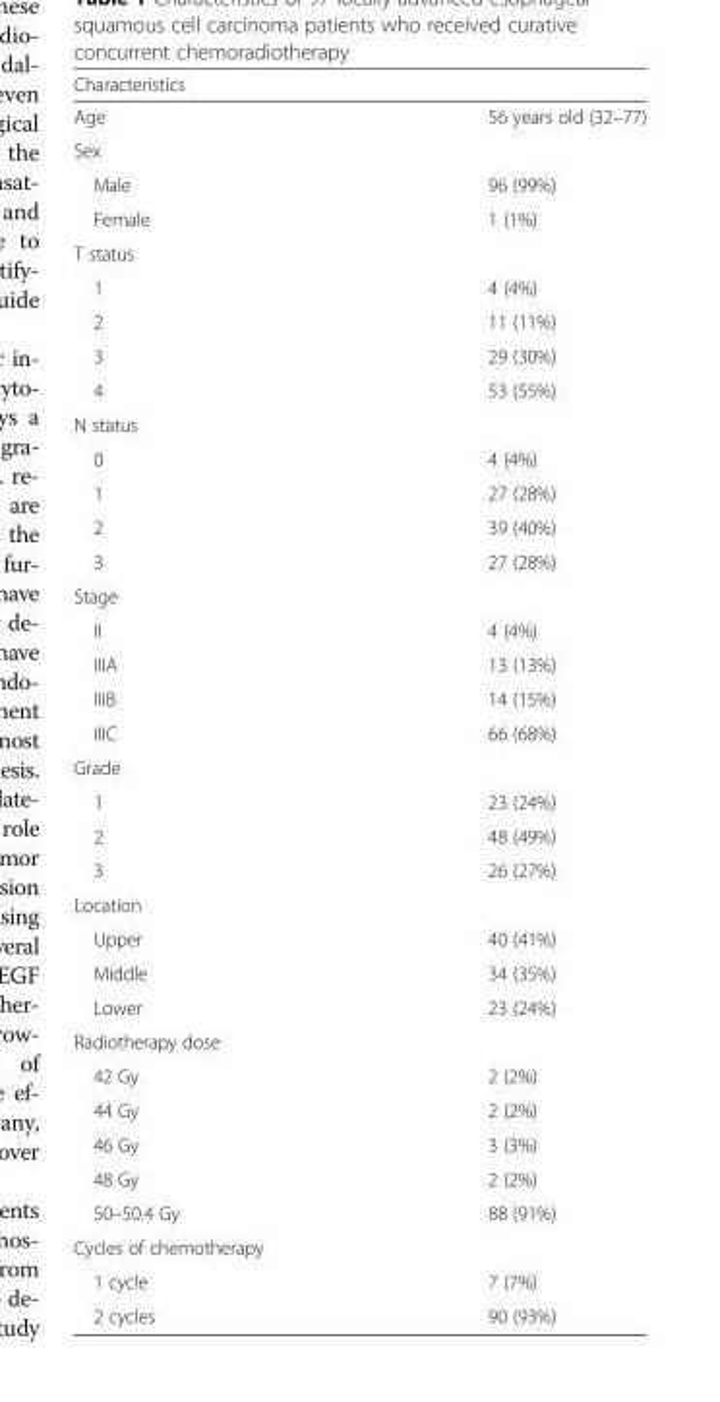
<table><thead><tr><td>Characteristics</td><td></td></tr></thead><tbody><tr><td>Age</td><td>56 years old (32–77)</td></tr><tr><td colspan="2">Sex</td></tr><tr><td>Male</td><td>96 (99%)</td></tr><tr><td>Female</td><td>1 (1%)</td></tr><tr><td colspan="2">T status</td></tr><tr><td>1</td><td>4 (4%)</td></tr><tr><td>2</td><td>11 (11%)</td></tr><tr><td>3</td><td>29 (30%)</td></tr><tr><td>4</td><td>53 (55%)</td></tr><tr><td colspan="2">N status</td></tr><tr><td>0</td><td>4 (4%)</td></tr><tr><td>1</td><td>27 (28%)</td></tr><tr><td>2</td><td>39 (40%)</td></tr><tr><td>3</td><td>27 (28%)</td></tr><tr><td colspan="2">Stage</td></tr><tr><td>II</td><td>4 (4%)</td></tr><tr><td>IIIA</td><td>13 (13%)</td></tr><tr><td>IIIB</td><td>14 (15%)</td></tr><tr><td>IIIC</td><td>66 (68%)</td></tr><tr><td colspan="2">Grade</td></tr><tr><td>1</td><td>23 (24%)</td></tr><tr><td>2</td><td>48 (49%)</td></tr><tr><td>3</td><td>26 (27%)</td></tr><tr><td colspan="2">Location</td></tr><tr><td>Upper</td><td>40 (41%)</td></tr><tr><td>Middle</td><td>34 (35%)</td></tr><tr><td>Lower</td><td>23 (24%)</td></tr><tr><td colspan="2">Radiotherapy dose</td></tr><tr><td>42 Gy</td><td>2 (2%)</td></tr><tr><td>44 Gy</td><td>2 (2%)</td></tr><tr><td>46 Gy</td><td>3 (3%)</td></tr><tr><td>48 Gy</td><td>2 (2%)</td></tr><tr><td>50–50.4 Gy</td><td>88 (91%)</td></tr><tr><td colspan="2">Cycles of chemotherapy</td></tr><tr><td>1 cycle</td><td>7 (7%)</td></tr><tr><td>2 cycles</td><td>90 (93%)</td></tr></tbody></table>